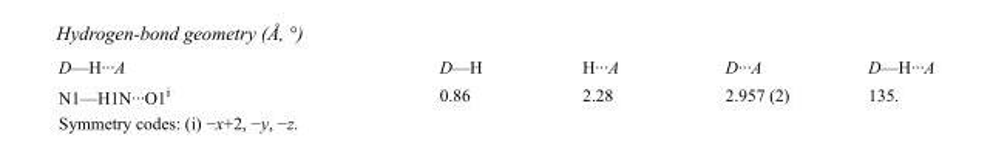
<table><tbody><tr><td>D—H···A</td><td>D—H</td><td>H···A</td><td>D···A</td><td>D—H···A</td></tr><tr><td>N1—H1N···O1<sup>i</sup></td><td>0.86</td><td>2.28</td><td>2.957 (2)</td><td>135.</td></tr></tbody></table>